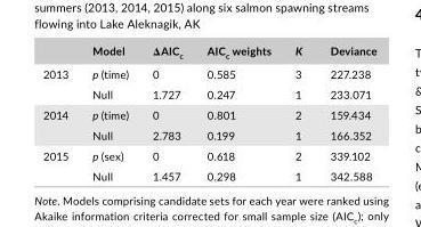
<table><thead><tr><td></td><td>Model</td><td>ΔAIC<sub>c</sub></td><td>AIC<sub>c</sub> weights</td><td>K</td><td>Deviance</td></tr></thead><tbody><tr><td rowspan="2">2013</td><td>p (time)</td><td>0</td><td>0.585</td><td>3</td><td>227.238</td></tr><tr><td>Null</td><td>1.727</td><td>0.247</td><td>1</td><td>233.071</td></tr><tr><td rowspan="2">2014</td><td>p (time)</td><td>0</td><td>0.801</td><td>2</td><td>159.434</td></tr><tr><td>Null</td><td>2.783</td><td>0.199</td><td>1</td><td>166.352</td></tr><tr><td rowspan="2">2015</td><td>p (sex)</td><td>0</td><td>0.618</td><td>2</td><td>339.102</td></tr><tr><td>Null</td><td>1.457</td><td>0.298</td><td>1</td><td>342.588</td></tr></tbody></table>